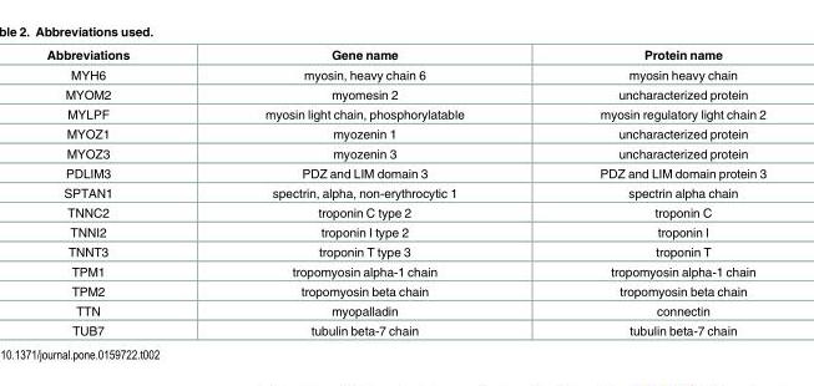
<table><thead><tr><td>Abbreviations</td><td>Gene name</td><td>Protein name</td></tr></thead><tbody><tr><td>MYH6</td><td>myosin, heavy chain 6</td><td>myosin heavy chain</td></tr><tr><td>MYOM2</td><td>myomesin 2</td><td>uncharacterized protein</td></tr><tr><td>MYLPF</td><td>myosin light chain, phosphorylatable</td><td>myosin regulatory light chain 2</td></tr><tr><td>MYOZ1</td><td>myozenin 1</td><td>uncharacterized protein</td></tr><tr><td>MYOZ3</td><td>myozenin 3</td><td>uncharacterized protein</td></tr><tr><td>PDLIM3</td><td>PDZ and LIM domain 3</td><td>PDZ and LIM domain protein 3</td></tr><tr><td>SPTAN1</td><td>spectrin, alpha, non-erythrocytic 1</td><td>spectrin alpha chain</td></tr><tr><td>TNNC2</td><td>troponin C type 2</td><td>troponin C</td></tr><tr><td>TNNI2</td><td>troponin I type 2</td><td>troponin I</td></tr><tr><td>TNNT3</td><td>troponin T type 3</td><td>troponin T</td></tr><tr><td>TPM1</td><td>tropomyosin alpha-1 chain</td><td>tropomyosin alpha-1 chain</td></tr><tr><td>TPM2</td><td>tropomyosin beta chain</td><td>tropomyosin beta chain</td></tr><tr><td>TTN</td><td>myopalladin</td><td>connectin</td></tr><tr><td>TUB7</td><td>tubulin beta-7 chain</td><td>tubulin beta-7 chain</td></tr></tbody></table>